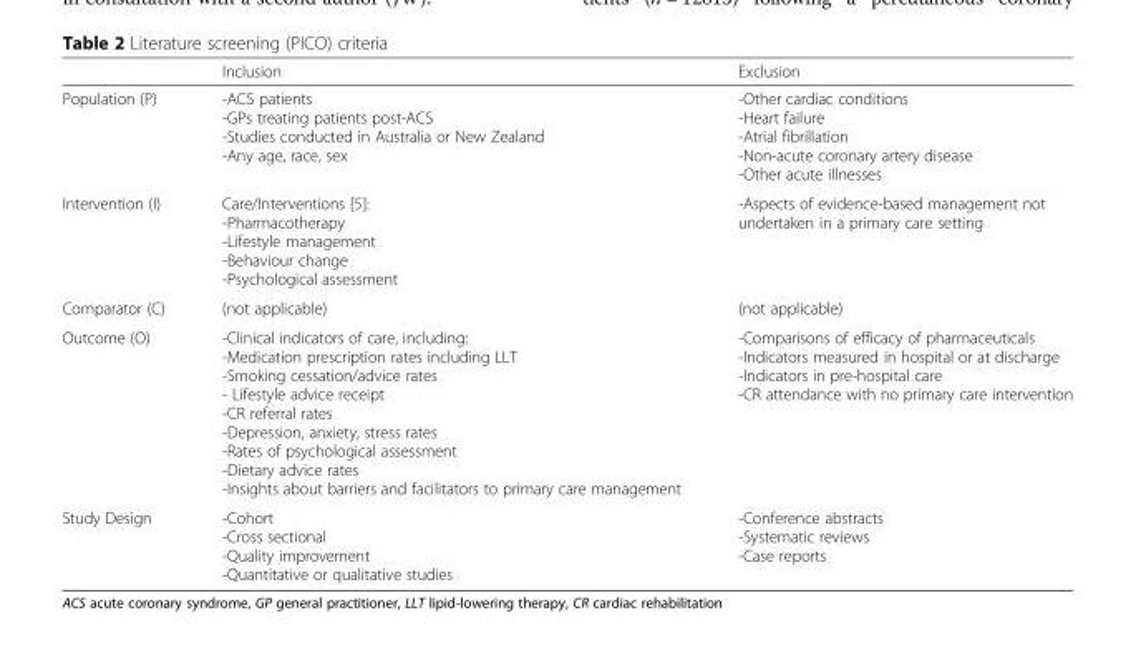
<table><thead><tr><td></td><td>Inclusion</td><td>Exclusion</td></tr></thead><tbody><tr><td>Population (P)</td><td>-ACS patients -GPs treating patients post-ACS -Studies conducted in Australia or New Zealand -Any age, race, sex</td><td>-Other cardiac conditions -Heart failure -Atrial fibrillation -Non-acute coronary artery disease -Other acute illnesses</td></tr><tr><td>Intervention (I)</td><td>Care/Interventions [5]: -Pharmacotherapy -Lifestyle management -Behaviour change -Psychological assessment</td><td>-Aspects of evidence-based management not undertaken in a primary care setting</td></tr><tr><td>Comparator (C)</td><td>(not applicable)</td><td>(not applicable)</td></tr><tr><td>Outcome (O)</td><td>-Clinical indicators of care, including: -Medication prescription rates including LLT -Smoking cessation/advice rates - Lifestyle advice receipt -CR referral rates -Depression, anxiety, stress rates -Rates of psychological assessment -Dietary advice rates -Insights about barriers and facilitators to primary care management</td><td>-Comparisons of efficacy of pharmaceuticals -Indicators measured in hospital or at discharge -Indicators in pre-hospital care -CR attendance with no primary care intervention</td></tr><tr><td>Study Design</td><td>-Cohort -Cross sectional -Quality improvement -Quantitative or qualitative studies</td><td>-Conference abstracts -Systematic reviews -Case reports</td></tr></tbody></table>